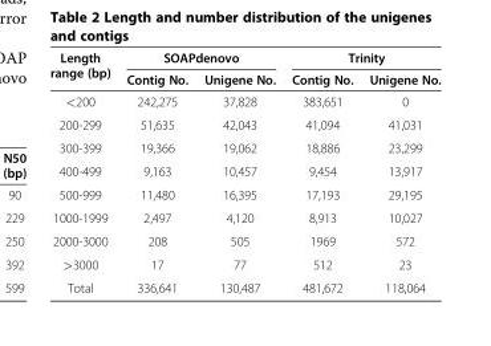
<table><thead><tr><td rowspan="2">Length range (bp)</td><td colspan="2">SOAPdenovo</td><td colspan="2">Trinity</td></tr><tr><td>Contig No.</td><td>Unigene No.</td><td>Contig No.</td><td>Unigene No.</td></tr></thead><tbody><tr><td>&lt;200</td><td>242,275</td><td>37,828</td><td>383,651</td><td>0</td></tr><tr><td>200-299</td><td>51,635</td><td>42,043</td><td>41,094</td><td>41,031</td></tr><tr><td>300-399</td><td>19,366</td><td>19,062</td><td>18,886</td><td>23,299</td></tr><tr><td>400-499</td><td>9,163</td><td>10,457</td><td>9,454</td><td>13,917</td></tr><tr><td>500-999</td><td>11,480</td><td>16,395</td><td>17,193</td><td>29,195</td></tr><tr><td>1000-1999</td><td>2,497</td><td>4,120</td><td>8,913</td><td>10,027</td></tr><tr><td>2000-3000</td><td>208</td><td>505</td><td>1969</td><td>572</td></tr><tr><td>&gt;3000</td><td>17</td><td>77</td><td>512</td><td>23</td></tr><tr><td>Total</td><td>336,641</td><td>130,487</td><td>481,672</td><td>118,064</td></tr></tbody></table>